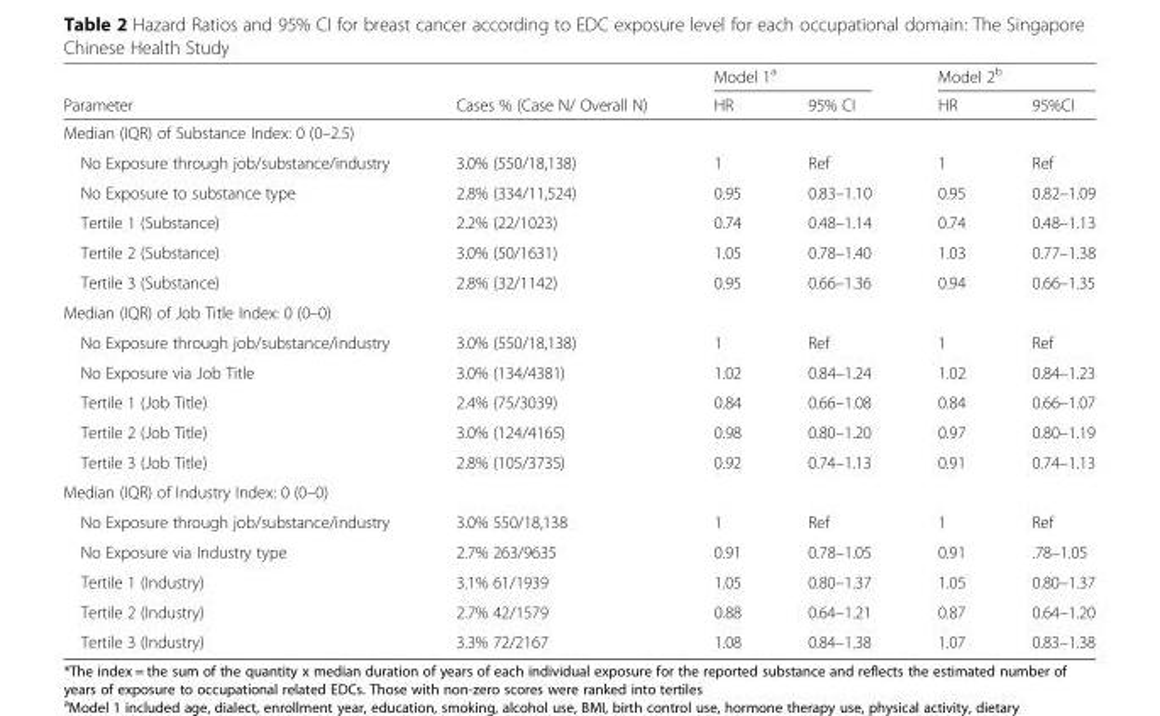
<table><thead><tr><td rowspan="2">Parameter</td><td rowspan="2">Cases % (Case N/ Overall N)</td><td colspan="2">Model 1<sup>a</sup></td><td colspan="2">Model 2<sup>b</sup></td></tr><tr><td>HR</td><td>95% CI</td><td>HR</td><td>95%CI</td></tr></thead><tbody><tr><td colspan="6">Median (IQR) of Substance Index: 0 (0–2.5)</td></tr><tr><td>No Exposure through job/substance/industry</td><td>3.0% (550/18,138)</td><td>1</td><td>Ref</td><td>1</td><td>Ref</td></tr><tr><td>No Exposure to substance type</td><td>2.8% (334/11,524)</td><td>0.95</td><td>0.83–1.10</td><td>0.95</td><td>0.82–1.09</td></tr><tr><td>Tertile 1 (Substance)</td><td>2.2% (22/1023)</td><td>0.74</td><td>0.48–1.14</td><td>0.74</td><td>0.48–1.13</td></tr><tr><td>Tertile 2 (Substance)</td><td>3.0% (50/1631)</td><td>1.05</td><td>0.78–1.40</td><td>1.03</td><td>0.77–1.38</td></tr><tr><td>Tertile 3 (Substance)</td><td>2.8% (32/1142)</td><td>0.95</td><td>0.66–1.36</td><td>0.94</td><td>0.66–1.35</td></tr><tr><td colspan="6">Median (IQR) of Job Title Index: 0 (0–0)</td></tr><tr><td>No Exposure through job/substance/industry</td><td>3.0% (550/18,138)</td><td>1</td><td>Ref</td><td>1</td><td>Ref</td></tr><tr><td>No Exposure via Job Title</td><td>3.0% (134/4381)</td><td>1.02</td><td>0.84–1.24</td><td>1.02</td><td>0.84–1.23</td></tr><tr><td>Tertile 1 (Job Title)</td><td>2.4% (75/3039)</td><td>0.84</td><td>0.66–1.08</td><td>0.84</td><td>0.66–1.07</td></tr><tr><td>Tertile 2 (Job Title)</td><td>3.0% (124/4165)</td><td>0.98</td><td>0.80–1.20</td><td>0.97</td><td>0.80–1.19</td></tr><tr><td>Tertile 3 (Job Title)</td><td>2.8% (105/3735)</td><td>0.92</td><td>0.74–1.13</td><td>0.91</td><td>0.74–1.13</td></tr><tr><td colspan="6">Median (IQR) of Industry Index: 0 (0–0)</td></tr><tr><td>No Exposure through job/substance/industry</td><td>3.0% 550/18,138</td><td>1</td><td>Ref</td><td>1</td><td>Ref</td></tr><tr><td>No Exposure via Industry type</td><td>2.7% 263/9635</td><td>0.91</td><td>0.78–1.05</td><td>0.91</td><td>.78–1.05</td></tr><tr><td>Tertile 1 (Industry)</td><td>3.1% 61/1939</td><td>1.05</td><td>0.80–1.37</td><td>1.05</td><td>0.80–1.37</td></tr><tr><td>Tertile 2 (Industry)</td><td>2.7% 42/1579</td><td>0.88</td><td>0.64–1.21</td><td>0.87</td><td>0.64–1.20</td></tr><tr><td>Tertile 3 (Industry)</td><td>3.3% 72/2167</td><td>1.08</td><td>0.84–1.38</td><td>1.07</td><td>0.83–1.38</td></tr></tbody></table>